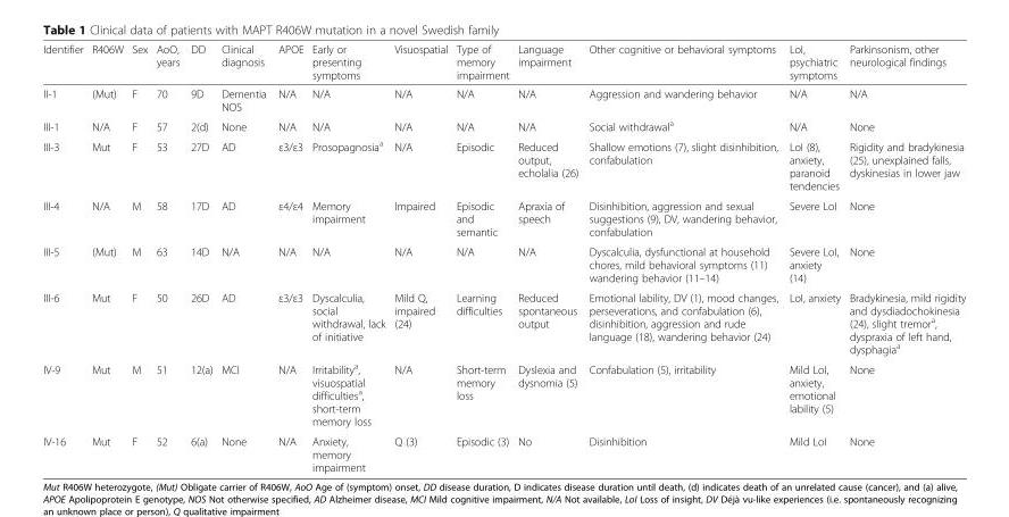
<table><thead><tr><td>Identifier</td><td>R406W</td><td>Sex</td><td>AoO, years</td><td>DD</td><td>Clinical diagnosis</td><td>APOE</td><td>Early or presenting symptoms</td><td>Visuospatial</td><td>Type of memory impairment</td><td>Language impairment</td><td>Other cognitive or behavioral symptoms</td><td>LoI, psychiatric symptoms</td><td>Parkinsonism, other neurological findings</td></tr></thead><tbody><tr><td>II-1</td><td>(Mut)</td><td>F</td><td>70</td><td>9D</td><td>Dementia NOS</td><td>N/A</td><td>N/A</td><td>N/A</td><td>N/A</td><td>N/A</td><td>Aggression and wandering behavior</td><td>N/A</td><td>N/A</td></tr><tr><td>III-1</td><td>N/A</td><td>F</td><td>57</td><td>2(d)</td><td>None</td><td>N/A</td><td>N/A</td><td>N/A</td><td>N/A</td><td>N/A</td><td>Social withdrawal<sup>a</sup></td><td>N/A</td><td>None</td></tr><tr><td>III-3</td><td>Mut</td><td>F</td><td>53</td><td>27D</td><td>AD</td><td>ε3/ε3</td><td>Prosopagnosia<sup>a</sup></td><td>N/A</td><td>Episodic</td><td>Reduced output, echolalia (26)</td><td>Shallow emotions (7), slight disinhibition, confabulation</td><td>LoI (8), anxiety, paranoid tendencies</td><td>Rigidity and bradykinesia (25), unexplained falls, dyskinesias in lower jaw</td></tr><tr><td>III-4</td><td>N/A</td><td>M</td><td>58</td><td>17D</td><td>AD</td><td>ε4/ε4</td><td>Memory impairment</td><td>Impaired</td><td>Episodic and semantic</td><td>Apraxia of speech</td><td>Disinhibition, aggression and sexual suggestions (9), DV, wandering behavior, confabulation</td><td>Severe LoI</td><td>None</td></tr><tr><td>III-5</td><td>(Mut)</td><td>M</td><td>63</td><td>14D</td><td>N/A</td><td>N/A</td><td>N/A</td><td>N/A</td><td>N/A</td><td>N/A</td><td>Dyscalculia, dysfunctional at household chores, mild behavioral symptoms (11) wandering behavior (11–14)</td><td>Severe LoI, anxiety (14)</td><td>None</td></tr><tr><td>III-6</td><td>Mut</td><td>F</td><td>50</td><td>26D</td><td>AD</td><td>ε3/ε3</td><td>Dyscalculia, social withdrawal, lack of initiative</td><td>Mild Q, impaired (24)</td><td>Learning difficulties</td><td>Reduced spontaneous output</td><td>Emotional lability, DV (1), mood changes, perseverations, and confabulation (6), disinhibition, aggression and rude language (18), wandering behavior (24)</td><td>LoI, anxiety</td><td>Bradykinesia, mild rigidity and dysdiadochokinesia (24), slight tremor<sup>a</sup>, dyspraxia of left hand, dysphagia<sup>a</sup></td></tr><tr><td>IV-9</td><td>Mut</td><td>M</td><td>51</td><td>12(a)</td><td>MCI</td><td>N/A</td><td>Irritability<sup>a</sup>, visuospatial difficulties<sup>a</sup>, short-term memory loss</td><td>N/A</td><td>Short-term memory loss</td><td>Dyslexia and dysnomia (5)</td><td>Confabulation (5), irritability</td><td>Mild LoI, anxiety, emotional lability (5)</td><td>None</td></tr><tr><td>IV-16</td><td>Mut</td><td>F</td><td>52</td><td>6(a)</td><td>None</td><td>N/A</td><td>Anxiety, memory impairment</td><td>Q (3)</td><td>Episodic (3)</td><td>No</td><td>Disinhibition</td><td>Mild LoI</td><td>None</td></tr></tbody></table>